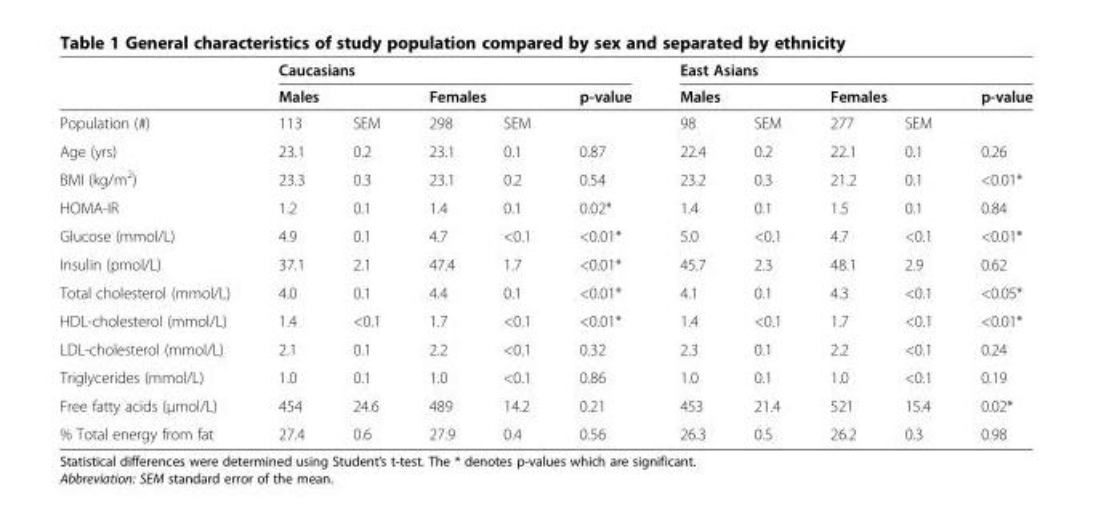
<table><thead><tr><td rowspan="3">Population (#)</td><td colspan="5">Caucasians</td><td colspan="5">East Asians</td></tr><tr><td colspan="2">Males</td><td colspan="2">Females</td><td rowspan="2">p-value</td><td colspan="2">Males</td><td colspan="2">Females</td><td rowspan="2">p-value</td></tr><tr><td>113</td><td>SEM</td><td>298</td><td>SEM</td><td>98</td><td>SEM</td><td>277</td><td>SEM</td></tr></thead><tbody><tr><td>Age (yrs)</td><td>23.1</td><td>0.2</td><td>23.1</td><td>0.1</td><td>0.87</td><td>22.4</td><td>0.2</td><td>22.1</td><td>0.1</td><td>0.26</td></tr><tr><td>BMI (kg/m<sup>2</sup>)</td><td>23.3</td><td>0.3</td><td>23.1</td><td>0.2</td><td>0.54</td><td>23.2</td><td>0.3</td><td>21.2</td><td>0.1</td><td>&lt;0.01*</td></tr><tr><td>HOMA-IR</td><td>1.2</td><td>0.1</td><td>1.4</td><td>0.1</td><td>0.02*</td><td>1.4</td><td>0.1</td><td>1.5</td><td>0.1</td><td>0.84</td></tr><tr><td>Glucose (mmol/L)</td><td>4.9</td><td>0.1</td><td>4.7</td><td>&lt;0.1</td><td>&lt;0.01*</td><td>5.0</td><td>&lt;0.1</td><td>4.7</td><td>&lt;0.1</td><td>&lt;0.01*</td></tr><tr><td>Insulin (pmol/L)</td><td>37.1</td><td>2.1</td><td>47.4</td><td>1.7</td><td>&lt;0.01*</td><td>45.7</td><td>2.3</td><td>48.1</td><td>2.9</td><td>0.62</td></tr><tr><td>Total cholesterol (mmol/L)</td><td>4.0</td><td>0.1</td><td>4.4</td><td>0.1</td><td>&lt;0.01*</td><td>4.1</td><td>0.1</td><td>4.3</td><td>&lt;0.1</td><td>&lt;0.05*</td></tr><tr><td>HDL-cholesterol (mmol/L)</td><td>1.4</td><td>&lt;0.1</td><td>1.7</td><td>&lt;0.1</td><td>&lt;0.01*</td><td>1.4</td><td>&lt;0.1</td><td>1.7</td><td>&lt;0.1</td><td>&lt;0.01*</td></tr><tr><td>LDL-cholesterol (mmol/L)</td><td>2.1</td><td>0.1</td><td>2.2</td><td>&lt;0.1</td><td>0.32</td><td>2.3</td><td>0.1</td><td>2.2</td><td>&lt;0.1</td><td>0.24</td></tr><tr><td>Triglycerides (mmol/L)</td><td>1.0</td><td>0.1</td><td>1.0</td><td>&lt;0.1</td><td>0.86</td><td>1.0</td><td>0.1</td><td>1.0</td><td>&lt;0.1</td><td>0.19</td></tr><tr><td>Free fatty acids (μmol/L)</td><td>454</td><td>24.6</td><td>489</td><td>14.2</td><td>0.21</td><td>453</td><td>21.4</td><td>521</td><td>15.4</td><td>0.02*</td></tr><tr><td>% Total energy from fat</td><td>27.4</td><td>0.6</td><td>27.9</td><td>0.4</td><td>0.56</td><td>26.3</td><td>0.5</td><td>26.2</td><td>0.3</td><td>0.98</td></tr></tbody></table>